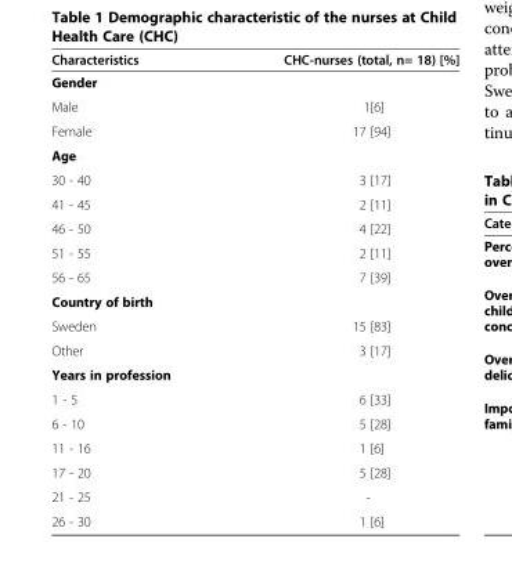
<table><thead><tr><td>Characteristics</td><td>CHC-nurses (total, n= 18) [%]</td></tr></thead><tbody><tr><td colspan="2">Gender</td></tr><tr><td>Male</td><td>1[6]</td></tr><tr><td>Female</td><td>17 [94]</td></tr><tr><td colspan="2">Age</td></tr><tr><td>30 - 40</td><td>3 [17]</td></tr><tr><td>41 - 45</td><td>2 [11]</td></tr><tr><td>46 - 50</td><td>4 [22]</td></tr><tr><td>51 - 55</td><td>2 [11]</td></tr><tr><td>56 - 65</td><td>7 [39]</td></tr><tr><td colspan="2">Country of birth</td></tr><tr><td>Sweden</td><td>15 [83]</td></tr><tr><td>Other</td><td>3 [17]</td></tr><tr><td colspan="2">Years in profession</td></tr><tr><td>1 - 5</td><td>6 [33]</td></tr><tr><td>6 - 10</td><td>5 [28]</td></tr><tr><td>11 - 16</td><td>1 [6]</td></tr><tr><td>17 - 20</td><td>5 [28]</td></tr><tr><td>21 - 25</td><td>-</td></tr><tr><td>26 - 30</td><td>1 [6]</td></tr></tbody></table>